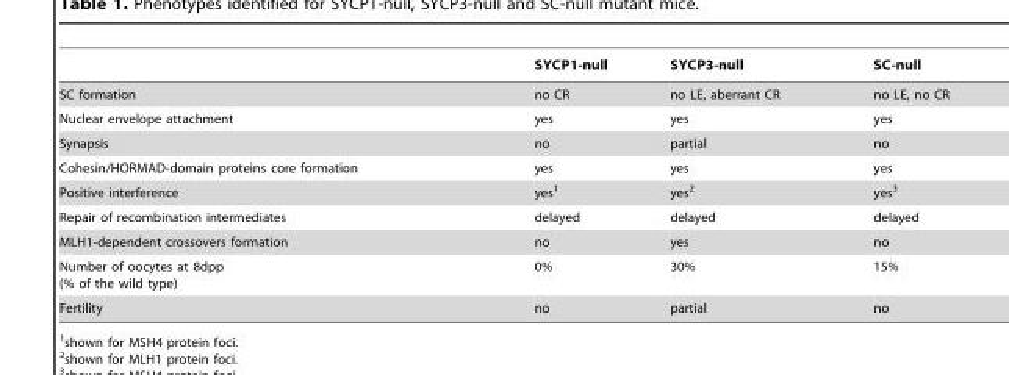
<table><thead><tr><td></td><td>SYCP1-null</td><td>SYCP3-null</td><td>SC-null</td></tr></thead><tbody><tr><td>SC formation</td><td>no CR</td><td>no LE, aberrant CR</td><td>no LE, no CR</td></tr><tr><td>Nuclear envelope attachment</td><td>yes</td><td>yes</td><td>yes</td></tr><tr><td>Synapsis</td><td>no</td><td>partial</td><td>no</td></tr><tr><td>Cohesin/HORMAD-domain proteins core formation</td><td>yes</td><td>yes</td><td>yes</td></tr><tr><td>Positive interference</td><td>yes<sup>1</sup></td><td>yes<sup>2</sup></td><td>yes<sup>3</sup></td></tr><tr><td>Repair of recombination intermediates</td><td>delayed</td><td>delayed</td><td>delayed</td></tr><tr><td>MLH1-dependent crossovers formation</td><td>no</td><td>yes</td><td>no</td></tr><tr><td>Number of oocytes at 8dpp (% of the wild type)</td><td>0%</td><td>30%</td><td>15%</td></tr><tr><td>Fertility</td><td>no</td><td>partial</td><td>no</td></tr></tbody></table>